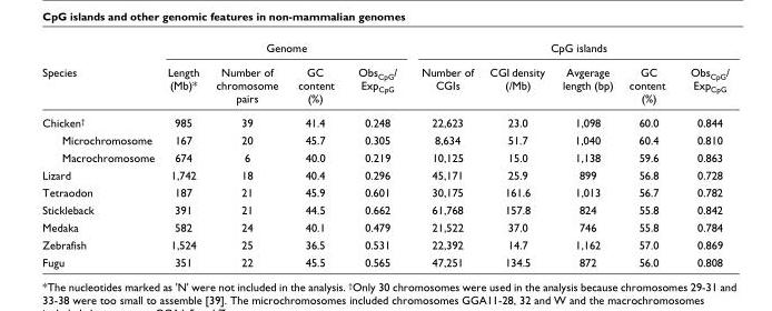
<table><thead><tr><td rowspan="2">Species</td><td colspan="4">Genome</td><td colspan="5">CpG islands</td></tr><tr><td>Length (Mb)*</td><td>Number of chromosome pairs</td><td>GC content (%)</td><td>Obs<sub>CpG</sub>/ Exp<sub>CpG</sub></td><td>Number of CGIs</td><td>CGI density (/Mb)</td><td>Avgerage length (bp)</td><td>GC content (%)</td><td>Obs<sub>CpG</sub>/ Exp<sub>CpG</sub></td></tr></thead><tbody><tr><td>Chicken<sup>†</sup></td><td>985</td><td>39</td><td>41.4</td><td>0.248</td><td>22,623</td><td>23.0</td><td>1,098</td><td>60.0</td><td>0.844</td></tr><tr><td>Microchromosome</td><td>167</td><td>20</td><td>45.7</td><td>0.305</td><td>8,634</td><td>51.7</td><td>1,040</td><td>60.4</td><td>0.810</td></tr><tr><td>Macrochromosome</td><td>674</td><td>6</td><td>40.0</td><td>0.219</td><td>10,125</td><td>15.0</td><td>1,138</td><td>59.6</td><td>0.863</td></tr><tr><td>Lizard</td><td>1,742</td><td>18</td><td>40.4</td><td>0.296</td><td>45,171</td><td>25.9</td><td>899</td><td>56.8</td><td>0.728</td></tr><tr><td>Tetraodon</td><td>187</td><td>21</td><td>45.9</td><td>0.601</td><td>30,175</td><td>161.6</td><td>1,013</td><td>56.7</td><td>0.782</td></tr><tr><td>Stickleback</td><td>391</td><td>21</td><td>44.5</td><td>0.662</td><td>61,768</td><td>157.8</td><td>824</td><td>55.8</td><td>0.842</td></tr><tr><td>Medaka</td><td>582</td><td>24</td><td>40.1</td><td>0.479</td><td>21,522</td><td>37.0</td><td>746</td><td>55.8</td><td>0.784</td></tr><tr><td>Zebrafish</td><td>1,524</td><td>25</td><td>36.5</td><td>0.531</td><td>22,392</td><td>14.7</td><td>1,162</td><td>57.0</td><td>0.869</td></tr><tr><td>Fugu</td><td>351</td><td>22</td><td>45.5</td><td>0.565</td><td>47,251</td><td>134.5</td><td>872</td><td>56.0</td><td>0.808</td></tr></tbody></table>